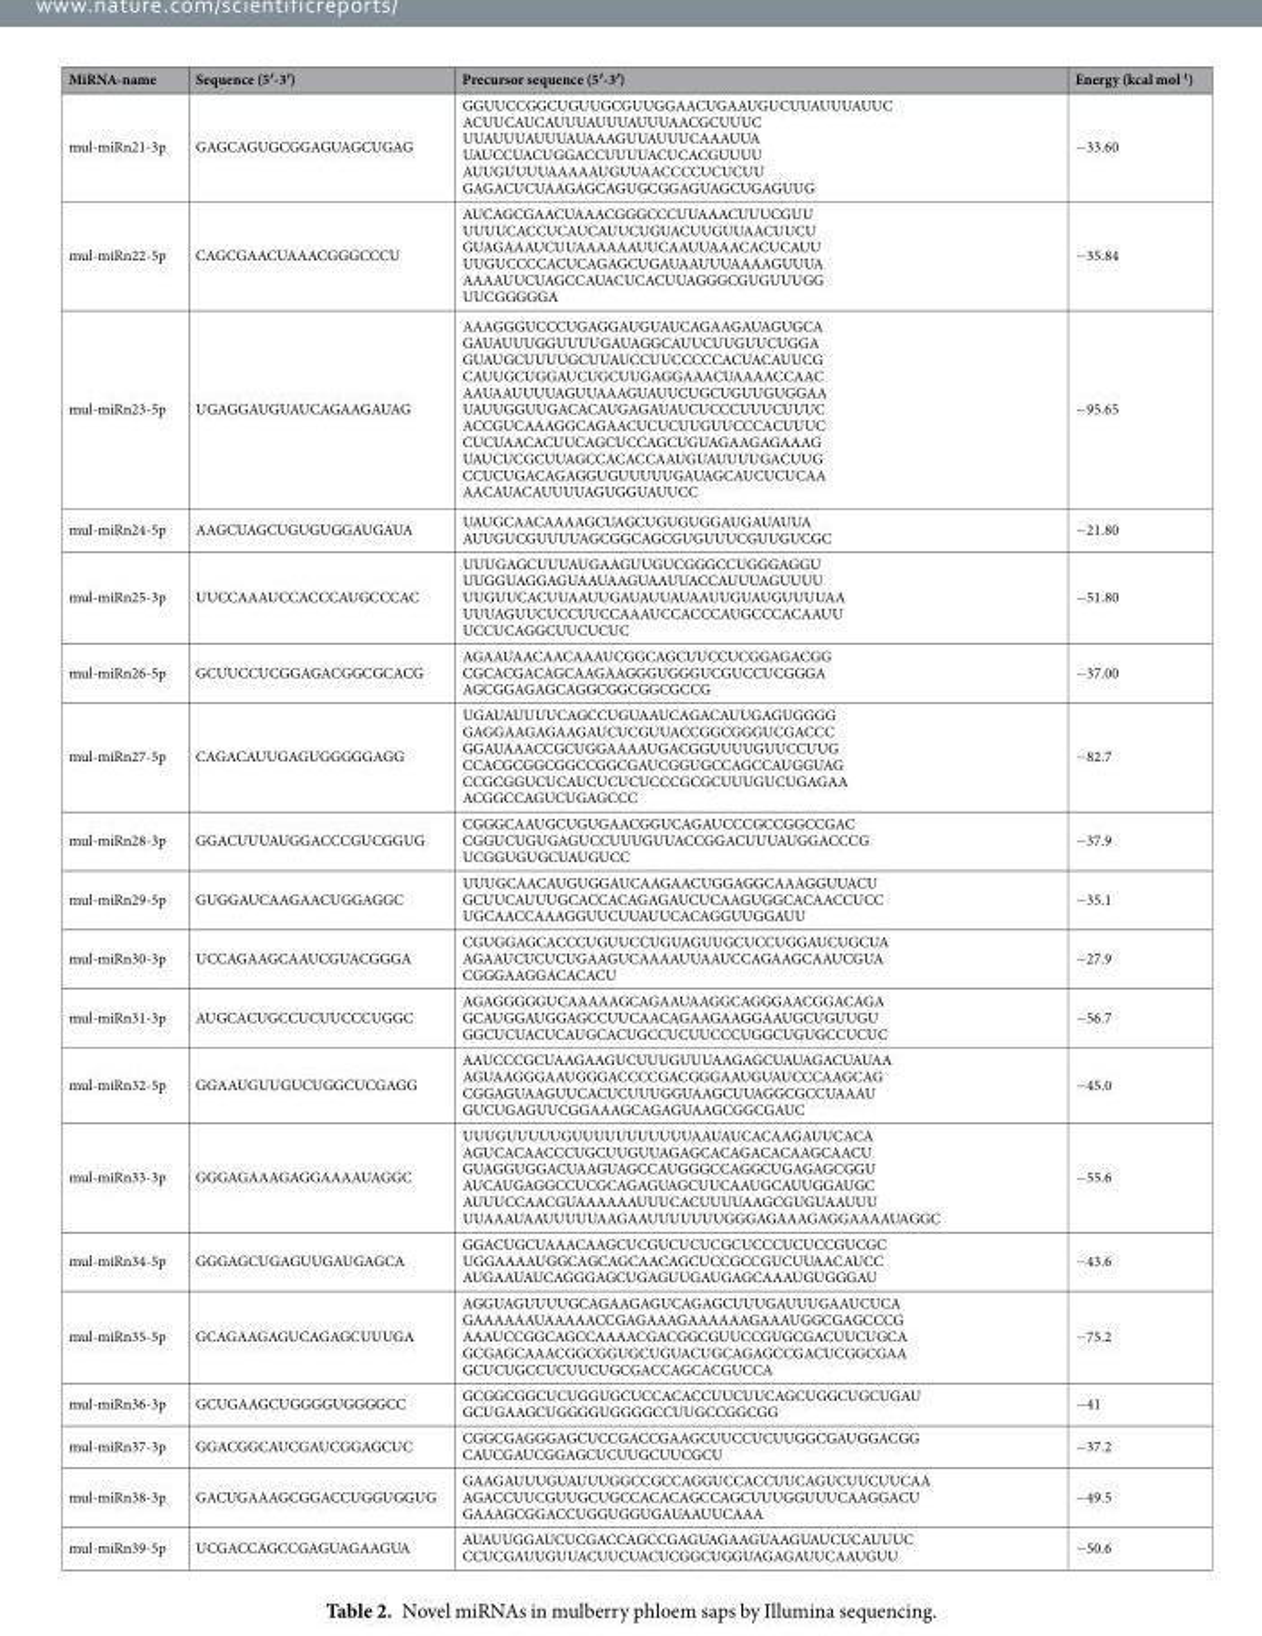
<table><thead><tr><td>MiRNA-name</td><td>Sequence (5′-3′)</td><td>Precursor sequence (5′-3′)</td><td>Energy (kcal mol<sup>-1</sup>)</td></tr></thead><tbody><tr><td>mul-miRn21-3p</td><td>GAGCAGUGCGGAGUAGCUGAG</td><td>GGUUCCGGCUGUUGCGUUGGAACUGAAUGUCUUAUUUAUUC ACUUCAUCAUUUAUUUAUUUAACGCUUUC UUAUUUAUUUAUAAAGUUAUUUCAAAUUA UAUCCUACUGGACCUUUUACUCACGUUUU AUUGUUUUAAAAAUGUUAACCCCUCUCUU GAGACUCUAAGAGCAGUGCGGAGUAGCUGAGUUG</td><td>−33.60</td></tr><tr><td>mul-miRn22-5p</td><td>CAGCGAACUAAACGGGCCCU</td><td>AUCAGCGAACUAAACGGGCCCUUAAACUUUCGUU UUUUCACCUCAUCAUUCUGUACUUGUUAACUUCU GUAGAAAUCUUAAAAAAUUCAAUUAAACACUCAUU UUGUCCCCACUCAGAGCUGAUAAUUUAAAAGUUUA AAAAUUCUAGCCAUACUCACUUAGGGCGUGUUUGG UUCGGGGGA</td><td>−35.84</td></tr><tr><td>mul-miRn23-5p</td><td>UGAGGAUGUAUCAGAAGAUAG</td><td>AAAGGGUCCCUGAGGAUGUAUCAGAAGAUAGUGCA GAUAUUUGGUUUUGAUAGGCAUUCUUGUUCUGGA GUAUGCUUUUGCUUAUCCUUCCCCCACUACAUUCG CAUUGCUGGAUCUGCUUGAGGAAACUAAAACCAAC AAUAAUUUUAGUUAAAGUAUUCUGCUGUUGUGGAA UAUUGGUUGACACAUGAGAUAUCUCCCUUUCUUUC ACCGUCAAAGGCAGAACUCUCUUGUUCCCACUUUC CUCUAACACUUCAGCUCCAGCUGUAGAAGAGAAAG UAUCUCGCUUAGCCACACCAAUGUAUUUUGACUUG CCUCUGACAGAGGUGUUUUUGAUAGCAUCUCUCAA AACAUACAUUUUAGUGGUAUUCC</td><td>−95.65</td></tr><tr><td>mul-miRn24-5p</td><td>AAGCUAGCUGUGUGGAUGAUA</td><td>UAUGCAACAAAAGCUAGCUGUGUGGAUGAUAUUA AUUGUCGUUUUAGCGGCAGCGUGUUUCGUUGUCGC</td><td>−21.80</td></tr><tr><td>mul-miRn25-3p</td><td>UUCCAAAUCCACCCAUGCCCAC</td><td>UUUGAGCUUUAUGAAGUUGUCGGGCCUGGGAGGU UUGGUAGGAGUAAUAAGUAAUUACCAUUUAGUUUU UUGUUCACUUAAUUGAUAUUAUAAUUGUAUGUUUUAA UUUAGUUCUCCUUCCAAAUCCACCCAUGCCCACAAUU UCCUCAGGCUUCUCUC</td><td>−51.80</td></tr><tr><td>mul-miRn26-5p</td><td>GCUUCCUCGGAGACGGCGCACG</td><td>AGAAUAACAACAAAUCGGCAGCUUCCUCGGAGACGG CGCACGACAGCAAGAAGGGUGGGUCGUCCUCGGGA AGCGGAGAGCAGGCGGCGGCGCCG</td><td>−37.00</td></tr><tr><td>mul-miRn27-5p</td><td>CAGACAUUGAGUGGGGGAGG</td><td>UGAUAUUUUCAGCCUGUAAUCAGACAUUGAGUGGGG GAGGAAGAGAAGAUCUCGUUACCGGCGGGUCGACCC GGAUAAACCGCUGGAAAAUGACGGUUUUGUUCCUUG CCACGCGGCGGCCGGCGAUCGGUGCCAGCCAUGGUAG CCGCGGUCUCAUCUCUCUCCCGCGCUUUGUCUGAGAA ACGGCCAGUCUGAGCCC</td><td>−82.7</td></tr><tr><td>mul-miRn28-3p</td><td>GGACUUUAUGGACCCGUCGGUG</td><td>CGGGCAAUGCUGUGAACGGUCAGAUCCCGCCGGCCGAC CGGUCUGUGAGUCCUUUGUUACCGGACUUUAUGGACCCG UCGGUGUGCUAUGUCC</td><td>−37.9</td></tr><tr><td>mul-miRn29-5p</td><td>GUGGAUCAAGAACUGGAGGC</td><td>UUUGCAACAUGUGGAUCAAGAACUGGAGGCAAAGGUUACU GCUUCAUUUGCACCACAGAGAUCUCAAGUGGCACAACCUCC UGCAACCAAAGGUUCUUAUUCACAGGUUGGAUU</td><td>−35.1</td></tr><tr><td>mul-miRn30-3p</td><td>UCCAGAAGCAAUCGUACGGGA</td><td>CGUGGAGCACCCUGUUCCUGUAGUUGCUCCUGGAUCUGCUA AGAAUCUCUCUGAAGUCAAAAUUAAUCCAGAAGCAAUCGUA CGGGAAGGACACACU</td><td>−27.9</td></tr><tr><td>mul-miRn31-3p</td><td>AUGCACUGCCUCUUCCCUGGC</td><td>AGAGGGGGUCAAAAAGCAGAAUAAGGCAGGGAACGGACAGA GCAUGGAUGGAGCCUUCAACAGAAGAAGGAAUGCUGUUGU GGCUCUACUCAUGCACUGCCUCUUCCCUGGCUGUGCCUCUC</td><td>−56.7</td></tr><tr><td>mul-miRn32-5p</td><td>GGAAUGUUGUCUGGCUCGAGG</td><td>AAUCCCGCUAAGAAGUCUUUGUUUAAGAGCUAUAGACUAUAA AGUAAGGGAAUGGGACCCCGACGGGAAUGUAUCCCAAGCAG CGGAGUAAGUUCACUCUUUGGUAAGCUUAGGCGCCUAAAU GUCUGAGUUCGGAAAGCAGAGUAAGCGGCGAUC</td><td>−45.0</td></tr><tr><td>mul-miRn33-3p</td><td>GGGAGAAAGAGGAAAAUAGGC</td><td>UUUGUUUUUGUUUUUUUUUUUAAUAUCACAAGAUUCACA AGUCACAACCCUGCUUGUUAGAGCACAGACACAAGCAACU GUAGGUGGACUAAGUAGCCAUGGGCCAGGCUGAGAGCGGU AUCAUGAGGCCUCGCAGAGUAGCUUCAAUGCAUUGGAUGC AUUUCCAACGUAAAAAAUUUCACUUUUAAGCGUGUAAUUU UUAAAUAAUUUUUAAGAAUUUUUUUGGGAGAAAGAGGAAAAUAGGC</td><td>−55.6</td></tr><tr><td>mul-miRn34-5p</td><td>GGGAGCUGAGUUGAUGAGCA</td><td>GGACUGCUAAACAAGCUCGUCUCUCGCUCCCUCUCCGUCGC UGGAAAAUGGCAGCAGCAACAGCUCCGCCGUCUUAACAUCC AUGAAUAUCAGGGAGCUGAGUUGAUGAGCAAAUGUGGGAU</td><td>−43.6</td></tr><tr><td>mul-miRn35-5p</td><td>GCAGAAGAGUCAGAGCUUUGA</td><td>AGGUAGUUUUGCAGAAGAGUCAGAGCUUUGAUUUGAAUCUCA GAAAAAAUAAAAACCGAGAAAGAAAAAAGAAAUGGCGAGCCCG AAAUCCGGCAGCCAAAACGACGGCGUUCCGUGCGACUUCUGCA GCGAGCAAACGGCGGUGCUGUACUGCAGAGCCGACUCGGCGAA GCUCUGCCUCUUCUGCGACCAGCACGUCCA</td><td>−75.2</td></tr><tr><td>mul-miRn36-3p</td><td>GCUGAAGCUGGGGUGGGGCC</td><td>GCGGCGGCUCUGGUGCUCCACACCUUCUUCAGCUGGCUGCUGAU GCUGAAGCUGGGGUGGGGCCUUGCCGGCGG</td><td>−41</td></tr><tr><td>mul-miRn37-3p</td><td>GGACGGCAUCGAUCGGAGCUC</td><td>CGGCGAGGGAGCUCCGACCGAAGCUUCCUCUUGGCGAUGGACGG CAUCGAUCGGAGCUCUUGCUUCGCU</td><td>−37.2</td></tr><tr><td>mul-miRn38-3p</td><td>GACUGAAAGCGGACCUGGUGGUG</td><td>GAAGAUUUGUAUUUGGCCGCCAGGUCCACCUUCAGUCUUCUUCAA AGACCUUCGUUGCUGCCACACAGCCAGCUUUGGUUUCAAGGACU GAAAGCGGACCUGGUGGUGAUAAUUCAAA</td><td>−49.5</td></tr><tr><td>mul-miRn39-5p</td><td>UCGACCAGCCGAGUAGAAGUA</td><td>AUAUUGGAUCUCGACCAGCCGAGUAGAAGUAAGUAUCUCAUUUC CCUCGAUUGUUACUUCUACUCGGCUGGUAGAGAUUCAAUGUU</td><td>−50.6</td></tr></tbody></table>